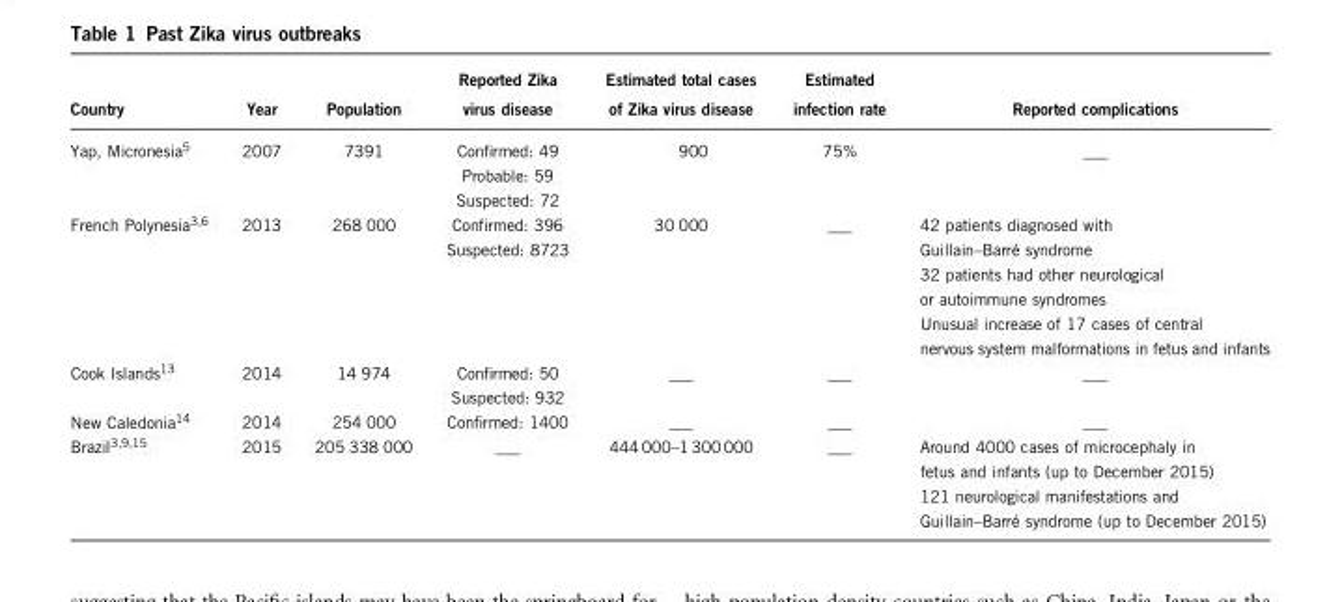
<table><thead><tr><td>Country</td><td>Year</td><td>Population</td><td>Reported Zika virus disease</td><td>Estimated total cases of Zika virus disease</td><td>Estimated infection rate</td><td>Reported complications</td></tr></thead><tbody><tr><td>Yap, Micronesia<sup>5</sup></td><td>2007</td><td>7391</td><td>Confirmed: 49 Probable: 59 Suspected: 72</td><td>900</td><td>75%</td><td>___</td></tr><tr><td>French Polynesia<sup>3,6</sup></td><td>2013</td><td>268 000</td><td>Confirmed: 396 Suspected: 8723</td><td>30 000</td><td>___</td><td>42 patients diagnosed with Guillain–Barré syndrome 32 patients had other neurological or autoimmune syndromes Unusual increase of 17 cases of central nervous system malformations in fetus and infants</td></tr><tr><td>Cook Islands<sup>13</sup></td><td>2014</td><td>14 974</td><td>Confirmed: 50 Suspected: 932</td><td>___</td><td>___</td><td>___</td></tr><tr><td>New Caledonia<sup>14</sup></td><td>2014</td><td>254 000</td><td>Confirmed: 1400</td><td>___</td><td>___</td><td>___</td></tr><tr><td>Brazil<sup>3,9,15</sup></td><td>2015</td><td>205 338 000</td><td>___</td><td>444 000–1 300000</td><td>___</td><td>Around 4000 cases of microcephaly in fetus and infants (up to December 2015) 121 neurological manifestations and Guillain–Barré syndrome (up to December 2015)</td></tr></tbody></table>